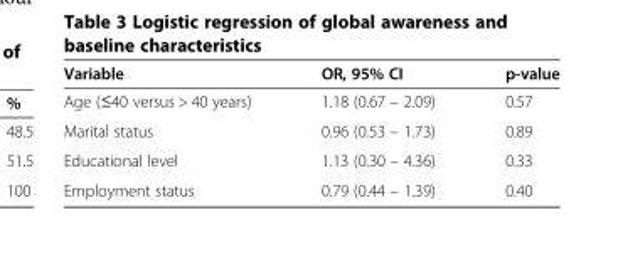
<table><thead><tr><td>Variable</td><td>OR, 95% CI</td><td>p-value</td></tr></thead><tbody><tr><td>Age (≤40 versus &gt; 40 years)</td><td>1.18 (0.67 – 2.09)</td><td>0.57</td></tr><tr><td>Marital status</td><td>0.96 (0.53 – 1.73)</td><td>0.89</td></tr><tr><td>Educational level</td><td>1.13 (0.30 – 4.36)</td><td>0.33</td></tr><tr><td>Employment status</td><td>0.79 (0.44 – 1.39)</td><td>0.40</td></tr></tbody></table>